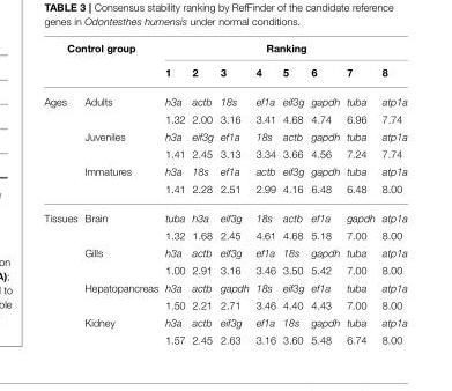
<table><thead><tr><td colspan="2">Control group</td><td colspan="8">Ranking</td></tr><tr><td></td><td></td><td>1</td><td>2</td><td>3</td><td>4</td><td>5</td><td>6</td><td>7</td><td>8</td></tr></thead><tbody><tr><td rowspan="6">Ages</td><td>Adults</td><td>h3a</td><td>actb</td><td>18s</td><td>ef1a</td><td>eif3g</td><td>gapdh</td><td>tuba</td><td>atp1a</td></tr><tr><td></td><td>1.32</td><td>2.00</td><td>3.16</td><td>3.41</td><td>4.68</td><td>4.74</td><td>6.96</td><td>7.74</td></tr><tr><td>Juveniles</td><td>h3a</td><td>eif3g</td><td>ef1a</td><td>18s</td><td>actb</td><td>gapdh</td><td>tuba</td><td>atp1a</td></tr><tr><td></td><td>1.41</td><td>2.45</td><td>3.13</td><td>3.34</td><td>3.66</td><td>4.56</td><td>7.24</td><td>7.74</td></tr><tr><td>Immatures</td><td>h3a</td><td>18s</td><td>ef1a</td><td>actb</td><td>eif3g</td><td>gapdh</td><td>tuba</td><td>atp1a</td></tr><tr><td></td><td>1.41</td><td>2.28</td><td>2.51</td><td>2.99</td><td>4.16</td><td>6.48</td><td>6.48</td><td>8.00</td></tr><tr><td rowspan="8">Tissues</td><td>Brain</td><td>tuba</td><td>h3a</td><td>eif3g</td><td>18s</td><td>actb</td><td>ef1a</td><td>gapdh</td><td>atp1a</td></tr><tr><td></td><td>1.32</td><td>1.68</td><td>2.45</td><td>4.61</td><td>4.68</td><td>5.18</td><td>7.00</td><td>8.00</td></tr><tr><td>Gills</td><td>h3a</td><td>actb</td><td>eif3g</td><td>ef1a</td><td>18s</td><td>gapdh</td><td>tuba</td><td>atp1a</td></tr><tr><td></td><td>1.00</td><td>2.91</td><td>3.16</td><td>3.46</td><td>3.50</td><td>5.42</td><td>7.00</td><td>8.00</td></tr><tr><td>Hepatopancreas</td><td>h3a</td><td>actb</td><td>gapdh</td><td>18s</td><td>eif3g</td><td>ef1a</td><td>tuba</td><td>atp1a</td></tr><tr><td></td><td>1.50</td><td>2.21</td><td>2.71</td><td>3.46</td><td>4.40</td><td>4.43</td><td>7.00</td><td>8.00</td></tr><tr><td>Kidney</td><td>h3a</td><td>actb</td><td>eif3g</td><td>ef1a</td><td>18s</td><td>gapdh</td><td>tuba</td><td>atp1a</td></tr><tr><td></td><td>1.57</td><td>2.45</td><td>2.63</td><td>3.16</td><td>3.60</td><td>5.48</td><td>6.74</td><td>8.00</td></tr></tbody></table>